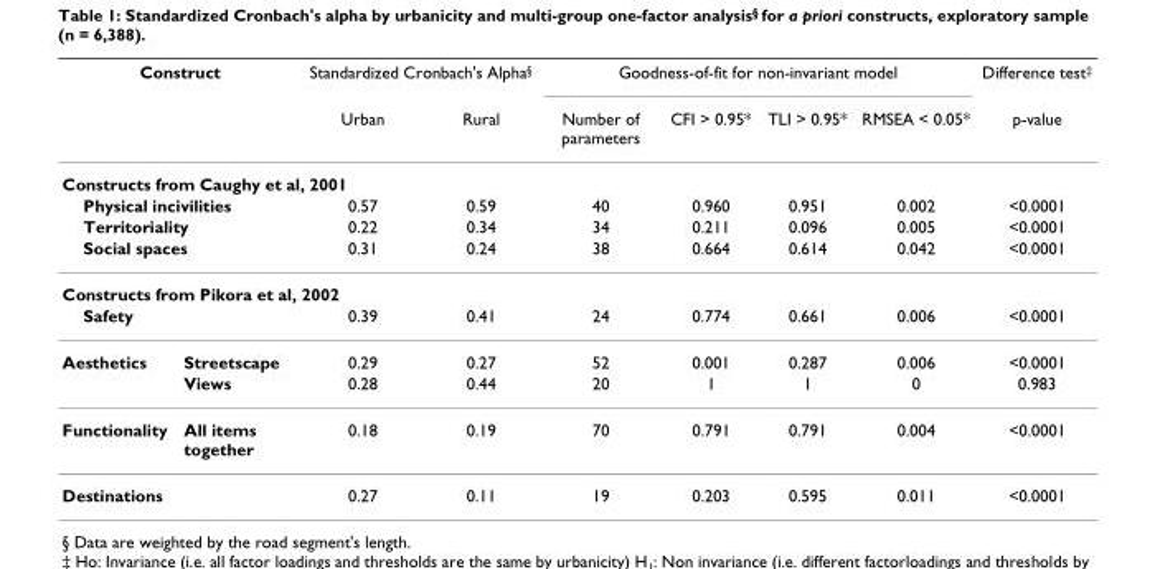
<table><thead><tr><td colspan="2">Construct</td><td colspan="2">Standardized Cronbach&#x27;s Alpha<sup>§</sup></td><td colspan="4">Goodness-of-fit for non-invariant model</td><td rowspan="2">Difference test<sup>‡</sup> p-value</td></tr><tr><td></td><td></td><td>Urban</td><td>Rural</td><td>Number of parameters</td><td>CFI &gt; 0.95*</td><td>TLI &gt; 0.95*</td><td>RMSEA &lt; 0.05*</td></tr></thead><tbody><tr><td colspan="9">Constructs from Caughy et al, 2001</td></tr><tr><td colspan="2">Physical incivilities</td><td>0.57</td><td>0.59</td><td>40</td><td>0.960</td><td>0.951</td><td>0.002</td><td>&lt;0.0001</td></tr><tr><td colspan="2">Territoriality</td><td>0.22</td><td>0.34</td><td>34</td><td>0.211</td><td>0.096</td><td>0.005</td><td>&lt;0.0001</td></tr><tr><td colspan="2">Social spaces</td><td>0.31</td><td>0.24</td><td>38</td><td>0.664</td><td>0.614</td><td>0.042</td><td>&lt;0.0001</td></tr><tr><td colspan="9">Constructs from Pikora et al, 2002</td></tr><tr><td>Safety</td><td></td><td>0.39</td><td>0.41</td><td>24</td><td>0.774</td><td>0.661</td><td>0.006</td><td>&lt;0.0001</td></tr><tr><td rowspan="2">Aesthetics</td><td>Streetscape</td><td>0.29</td><td>0.27</td><td>52</td><td>0.001</td><td>0.287</td><td>0.006</td><td>&lt;0.0001</td></tr><tr><td>Views</td><td>0.28</td><td>0.44</td><td>20</td><td>1</td><td>1</td><td>0</td><td>0.983</td></tr><tr><td>Functionality</td><td>All items together</td><td>0.18</td><td>0.19</td><td>70</td><td>0.791</td><td>0.791</td><td>0.004</td><td>&lt;0.0001</td></tr><tr><td>Destinations</td><td></td><td>0.27</td><td>0.11</td><td>19</td><td>0.203</td><td>0.595</td><td>0.011</td><td>&lt;0.0001</td></tr></tbody></table>